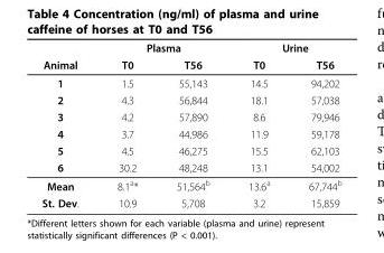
<table><thead><tr><td rowspan="2">Animal</td><td colspan="2">Plasma</td><td colspan="2">Urine</td></tr><tr><td>T0</td><td>T56</td><td>T0</td><td>T56</td></tr></thead><tbody><tr><td>1</td><td>1.5</td><td>55,143</td><td>14.5</td><td>94,202</td></tr><tr><td>2</td><td>4.3</td><td>56,844</td><td>18.1</td><td>57,038</td></tr><tr><td>3</td><td>4.2</td><td>57,890</td><td>8.6</td><td>79,946</td></tr><tr><td>4</td><td>3.7</td><td>44,986</td><td>11.9</td><td>59,178</td></tr><tr><td>5</td><td>4.5</td><td>46,275</td><td>15.5</td><td>62,103</td></tr><tr><td>6</td><td>30.2</td><td>48,248</td><td>13.1</td><td>54,002</td></tr><tr><td>Mean</td><td>8.1<sup>a</sup>*</td><td>51,564<sup>b</sup></td><td>13.6<sup>a</sup></td><td>67,744<sup>b</sup></td></tr><tr><td>St. Dev.</td><td>10.9</td><td>5,708</td><td>3.2</td><td>15,859</td></tr></tbody></table>